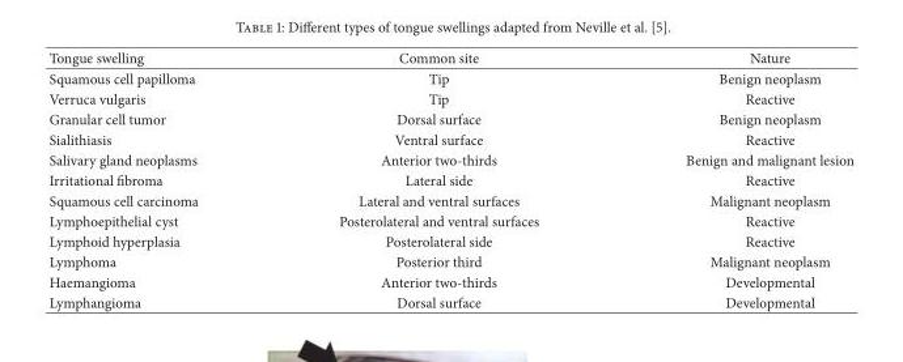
<table><thead><tr><td>Tongue swelling</td><td>Common site</td><td>Nature</td></tr></thead><tbody><tr><td>Squamous cell papilloma</td><td>Tip</td><td>Benign neoplasm</td></tr><tr><td>Verruca vulgaris</td><td>Tip</td><td>Reactive</td></tr><tr><td>Granular cell tumor</td><td>Dorsal surface</td><td>Benign neoplasm</td></tr><tr><td>Sialithiasis</td><td>Ventral surface</td><td>Reactive</td></tr><tr><td>Salivary gland neoplasms</td><td>Anterior two-thirds</td><td>Benign and malignant lesion</td></tr><tr><td>Irritational fibroma</td><td>Lateral side</td><td>Reactive</td></tr><tr><td>Squamous cell carcinoma</td><td>Lateral and ventral surfaces</td><td>Malignant neoplasm</td></tr><tr><td>Lymphoepithelial cyst</td><td>Posterolateral and ventral surfaces</td><td>Reactive</td></tr><tr><td>Lymphoid hyperplasia</td><td>Posterolateral side</td><td>Reactive</td></tr><tr><td>Lymphoma</td><td>Posterior third</td><td>Malignant neoplasm</td></tr><tr><td>Haemangioma</td><td>Anterior two-thirds</td><td>Developmental</td></tr><tr><td>Lymphangioma</td><td>Dorsal surface</td><td>Developmental</td></tr></tbody></table>